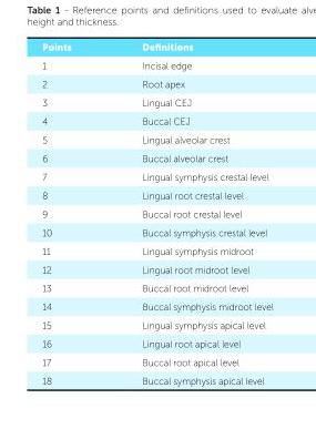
<table><tbody><tr><td>Points</td><td>Definitions</td></tr><tr><td>1</td><td>Incisal edge</td></tr><tr><td>2</td><td>Root apex</td></tr><tr><td>3</td><td>Lingual CEJ</td></tr><tr><td>4</td><td>Buccal CEJ</td></tr><tr><td>5</td><td>Lingual alveolar crest</td></tr><tr><td>6</td><td>Buccal alveolar crest</td></tr><tr><td>7</td><td>Lingual symphysis crestal level</td></tr><tr><td>8</td><td>Lingual root crestal level</td></tr><tr><td>9</td><td>Buccal root crestal level</td></tr><tr><td>10</td><td>Buccal symphysis crestal level</td></tr><tr><td>11</td><td>Lingual symphysis midroot</td></tr><tr><td>12</td><td>Lingual root midroot level</td></tr><tr><td>13</td><td>Buccal root midroot level</td></tr><tr><td>14</td><td>Buccal symphysis midroot level</td></tr><tr><td>15</td><td>Lingual symphysis apical level</td></tr><tr><td>16</td><td>Lingual root apical level</td></tr><tr><td>17</td><td>Buccal root apical level</td></tr><tr><td>18</td><td>Buccal symphysis apical level</td></tr></tbody></table>